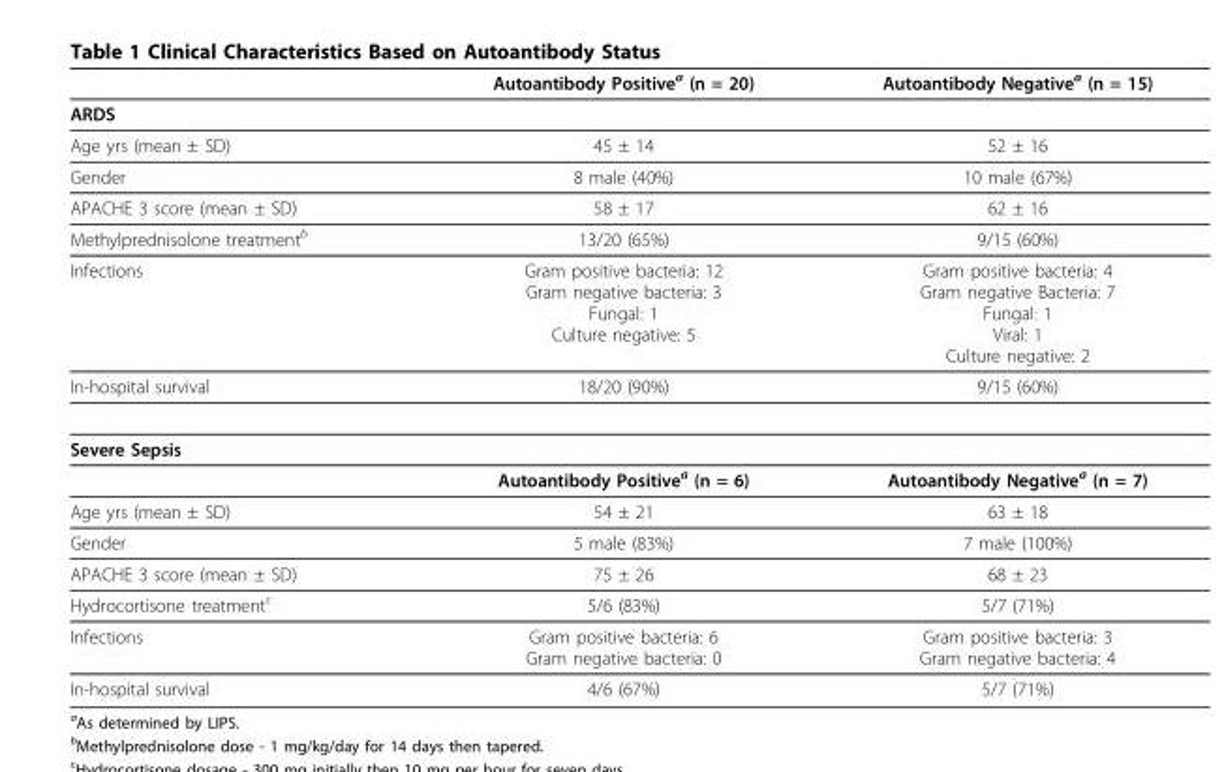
<table><thead><tr><td></td><td>Autoantibody Positive<sup>a</sup> (n = 20)</td><td>Autoantibody Negative<sup>a</sup> (n = 15)</td></tr></thead><tbody><tr><td colspan="3">ARDS</td></tr><tr><td>Age yrs (mean ± SD)</td><td>45 ± 14</td><td>52 ± 16</td></tr><tr><td>Gender</td><td>8 male (40%)</td><td>10 male (67%)</td></tr><tr><td>APACHE 3 score (mean ± SD)</td><td>58 ± 17</td><td>62 ± 16</td></tr><tr><td>Methylprednisolone treatment<sup>b</sup></td><td>13/20 (65%)</td><td>9/15 (60%)</td></tr><tr><td>Infections</td><td>Gram positive bacteria: 12 Gram negative bacteria: 3 Fungal: 1 Culture negative: 5</td><td>Gram positive bacteria: 4 Gram negative Bacteria: 7 Fungal: 1 Viral: 1 Culture negative: 2</td></tr><tr><td>In-hospital survival</td><td>18/20 (90%)</td><td>9/15 (60%)</td></tr><tr><td colspan="3">Severe Sepsis</td></tr><tr><td></td><td>Autoantibody Positivea (n = 6)</td><td>Autoantibody Negativea (n = 7)</td></tr><tr><td>Age yrs (mean ± SD)</td><td>54 ± 21</td><td>63 ± 18</td></tr><tr><td>Gender</td><td>5 male (83%)</td><td>7 male (100%)</td></tr><tr><td>APACHE 3 score (mean ± SD)</td><td>75 ± 26</td><td>68 ± 23</td></tr><tr><td>Hydrocortisone treatmentc</td><td>5/6 (83%)</td><td>5/7 (71%)</td></tr><tr><td>Infections</td><td>Gram positive bacteria: 6 Gram negative bacteria: 0</td><td>Gram positive bacteria: 3 Gram negative bacteria: 4</td></tr><tr><td>In-hospital survival</td><td>4/6 (67%)</td><td>5/7 (71%)</td></tr></tbody></table>